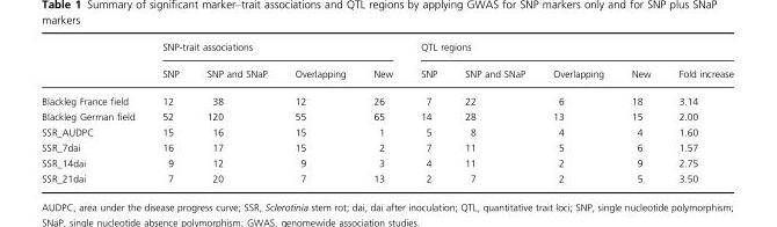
<table><thead><tr><td rowspan="2"></td><td colspan="4">SNP-trait associations</td><td colspan="5">QTL regions</td></tr><tr><td>SNP</td><td>SNP and SNaP</td><td>Overlapping</td><td>New</td><td>SNP</td><td>SNP and SNaP</td><td>Overlapping</td><td>New</td><td>Fold increase</td></tr></thead><tbody><tr><td>Blackleg France field</td><td>12</td><td>38</td><td>12</td><td>26</td><td>7</td><td>22</td><td>6</td><td>18</td><td>3.14</td></tr><tr><td>Blackleg German field</td><td>52</td><td>120</td><td>55</td><td>65</td><td>14</td><td>28</td><td>13</td><td>15</td><td>2.00</td></tr><tr><td>SSR_AUDPC</td><td>15</td><td>16</td><td>15</td><td>1</td><td>5</td><td>8</td><td>4</td><td>4</td><td>1.60</td></tr><tr><td>SSR_7dai</td><td>16</td><td>17</td><td>15</td><td>2</td><td>7</td><td>11</td><td>5</td><td>6</td><td>1.57</td></tr><tr><td>SSR_14dai</td><td>9</td><td>12</td><td>9</td><td>3</td><td>4</td><td>11</td><td>2</td><td>9</td><td>2.75</td></tr><tr><td>SSR_21dai</td><td>7</td><td>20</td><td>7</td><td>13</td><td>2</td><td>7</td><td>2</td><td>5</td><td>3.50</td></tr></tbody></table>